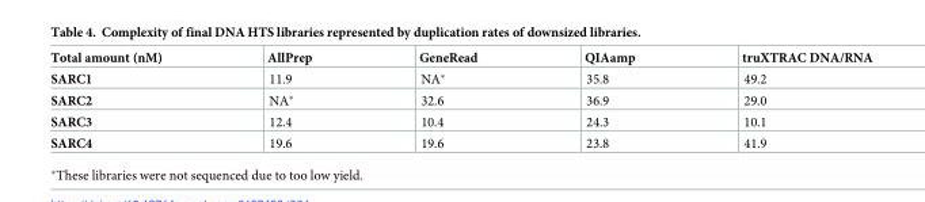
<table><thead><tr><td>Total amount (nM)</td><td>AllPrep</td><td>GeneRead</td><td>QIAamp</td><td>truXTRAC DNA/RNA</td></tr></thead><tbody><tr><td>SARC1</td><td>11.9</td><td>NA*</td><td>35.8</td><td>49.2</td></tr><tr><td>SARC2</td><td>NA*</td><td>32.6</td><td>36.9</td><td>29.0</td></tr><tr><td>SARC3</td><td>12.4</td><td>10.4</td><td>24.3</td><td>10.1</td></tr><tr><td>SARC4</td><td>19.6</td><td>19.6</td><td>23.8</td><td>41.9</td></tr></tbody></table>